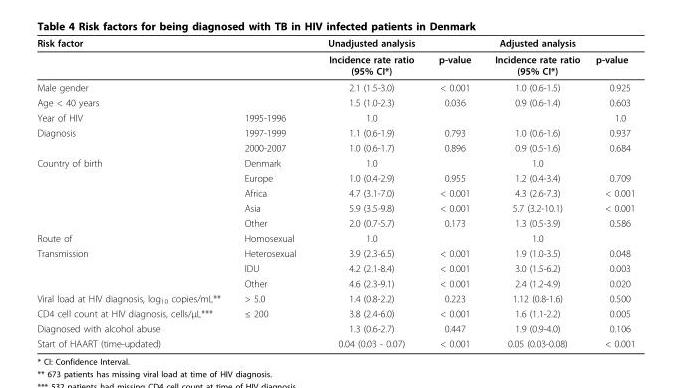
<table><thead><tr><td>Risk factor</td><td></td><td>Unadjusted analysis</td><td></td><td>Adjusted analysis</td><td></td></tr></thead><tbody><tr><td></td><td></td><td>Incidence rate ratio (95% CI*)</td><td>p-value</td><td>Incidence rate ratio (95% CI*)</td><td>p-value</td></tr><tr><td>Male gender</td><td></td><td>2.1 (1.5-3.0)</td><td>&lt; 0.001</td><td>1.0 (0.6-1.5)</td><td>0.925</td></tr><tr><td>Age &lt; 40 years</td><td></td><td>1.5 (1.0-2.3)</td><td>0.036</td><td>0.9 (0.6-1.4)</td><td>0.603</td></tr><tr><td>Year of HIV</td><td>1995-1996</td><td>1.0</td><td></td><td></td><td>1.0</td></tr><tr><td rowspan="2">Diagnosis</td><td>1997-1999</td><td>1.1 (0.6-1.9)</td><td>0.793</td><td>1.0 (0.6-1.6)</td><td>0.937</td></tr><tr><td>2000-2007</td><td>1.0 (0.6-1.7)</td><td>0.896</td><td>0.9 (0.5-1.6)</td><td>0.684</td></tr><tr><td rowspan="5">Country of birth</td><td>Denmark</td><td>1.0</td><td></td><td>1.0</td><td></td></tr><tr><td>Europe</td><td>1.0 (0.4-2.9)</td><td>0.955</td><td>1.2 (0.4-3.4)</td><td>0.709</td></tr><tr><td>Africa</td><td>4.7 (3.1-7.0)</td><td>&lt; 0.001</td><td>4.3 (2.6-7.3)</td><td>&lt; 0.001</td></tr><tr><td>Asia</td><td>5.9 (3.5-9.8)</td><td>&lt; 0.001</td><td>5.7 (3.2-10.1)</td><td>&lt; 0.001</td></tr><tr><td>Other</td><td>2.0 (0.7-5.7)</td><td>0.173</td><td>1.3 (0.5-3.9)</td><td>0.586</td></tr><tr><td>Route of</td><td>Homosexual</td><td>1.0</td><td></td><td>1.0</td><td></td></tr><tr><td rowspan="3">Transmission</td><td>Heterosexual</td><td>3.9 (2.3-6.5)</td><td>&lt; 0.001</td><td>1.9 (1.0-3.5)</td><td>0.048</td></tr><tr><td>IDU</td><td>4.2 (2.1-8.4)</td><td>&lt; 0.001</td><td>3.0 (1.5-6.2)</td><td>0.003</td></tr><tr><td>Other</td><td>4.6 (2.3-9.1)</td><td>&lt; 0.001</td><td>2.4 (1.2-4.9)</td><td>0.020</td></tr><tr><td>Viral load at HIV diagnosis, log<sub>10</sub> copies/mL**</td><td>&gt; 5.0</td><td>1.4 (0.8-2.2)</td><td>0.223</td><td>1.12 (0.8-1.6)</td><td>0.500</td></tr><tr><td>CD4 cell count at HIV diagnosis, cells/μL***</td><td>≤ 200</td><td>3.8 (2.4-6.0)</td><td>&lt; 0.001</td><td>1.6 (1.1-2.2)</td><td>0.005</td></tr><tr><td>Diagnosed with alcohol abuse</td><td></td><td>1.3 (0.6-2.7)</td><td>0.447</td><td>1.9 (0.9-4.0)</td><td>0.106</td></tr><tr><td>Start of HAART (time-updated)</td><td></td><td>0.04 (0.03 - 0.07)</td><td>&lt; 0.001</td><td>0.05 (0.03-0.08)</td><td>&lt; 0.001</td></tr></tbody></table>